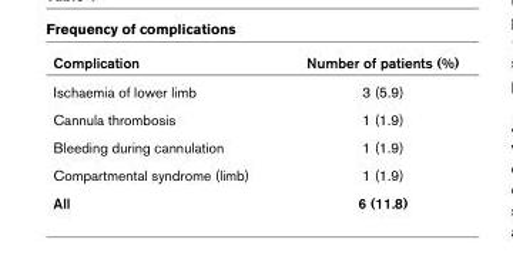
<table><thead><tr><td>Complication</td><td>Number of patients (%)</td></tr></thead><tbody><tr><td>Ischaemia of lower limb</td><td>3 (5.9)</td></tr><tr><td>Cannula thrombosis</td><td>1 (1.9)</td></tr><tr><td>Bleeding during cannulation</td><td>1 (1.9)</td></tr><tr><td>Compartmental syndrome (limb)</td><td>1 (1.9)</td></tr><tr><td>All</td><td>6 (11.8)</td></tr></tbody></table>